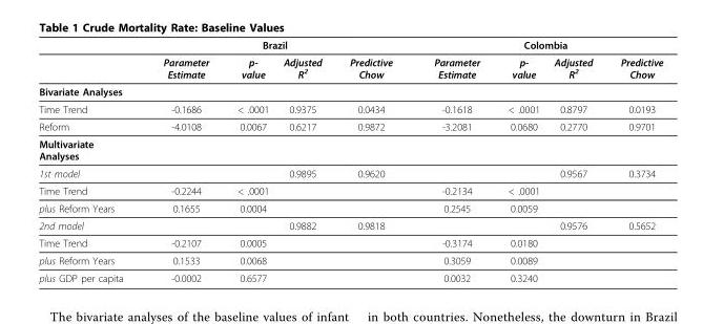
<table><thead><tr><td rowspan="2"></td><td colspan="4">Brazil</td><td colspan="4">Colombia</td></tr><tr><td>Parameter Estimate</td><td>p- value</td><td>Adjusted R<sup>2</sup></td><td>Predictive Chow</td><td>Parameter Estimate</td><td>p- value</td><td>Adjusted R<sup>2</sup></td><td>Predictive Chow</td></tr></thead><tbody><tr><td colspan="9">Bivariate Analyses</td></tr><tr><td>Time Trend</td><td>-0.1686</td><td>&lt; .0001</td><td>0.9375</td><td>0.0434</td><td>-0.1618</td><td>&lt; .0001</td><td>0.8797</td><td>0.0193</td></tr><tr><td>Reform</td><td>-4.0108</td><td>0.0067</td><td>0.6217</td><td>0.9872</td><td>-3.2081</td><td>0.0680</td><td>0.2770</td><td>0.9701</td></tr><tr><td colspan="9">Multivariate Analyses</td></tr><tr><td>1st model</td><td></td><td></td><td>0.9895</td><td>0.9620</td><td></td><td></td><td>0.9567</td><td>0.3734</td></tr><tr><td>Time Trend</td><td>-0.2244</td><td>&lt; .0001</td><td></td><td></td><td>-0.2134</td><td>&lt; .0001</td><td></td><td></td></tr><tr><td>plus Reform Years</td><td>0.1655</td><td>0.0004</td><td></td><td></td><td>0.2545</td><td>0.0059</td><td></td><td></td></tr><tr><td>2nd model</td><td></td><td></td><td>0.9882</td><td>0.9818</td><td></td><td></td><td>0.9576</td><td>0.5652</td></tr><tr><td>Time Trend</td><td>-0.2107</td><td>0.0005</td><td></td><td></td><td>-0.3174</td><td>0.0180</td><td></td><td></td></tr><tr><td>plus Reform Years</td><td>0.1533</td><td>0.0068</td><td></td><td></td><td>0.3059</td><td>0.0089</td><td></td><td></td></tr><tr><td>plus GDP per capita</td><td>-0.0002</td><td>0.6577</td><td></td><td></td><td>0.0032</td><td>0.3240</td><td></td><td></td></tr></tbody></table>